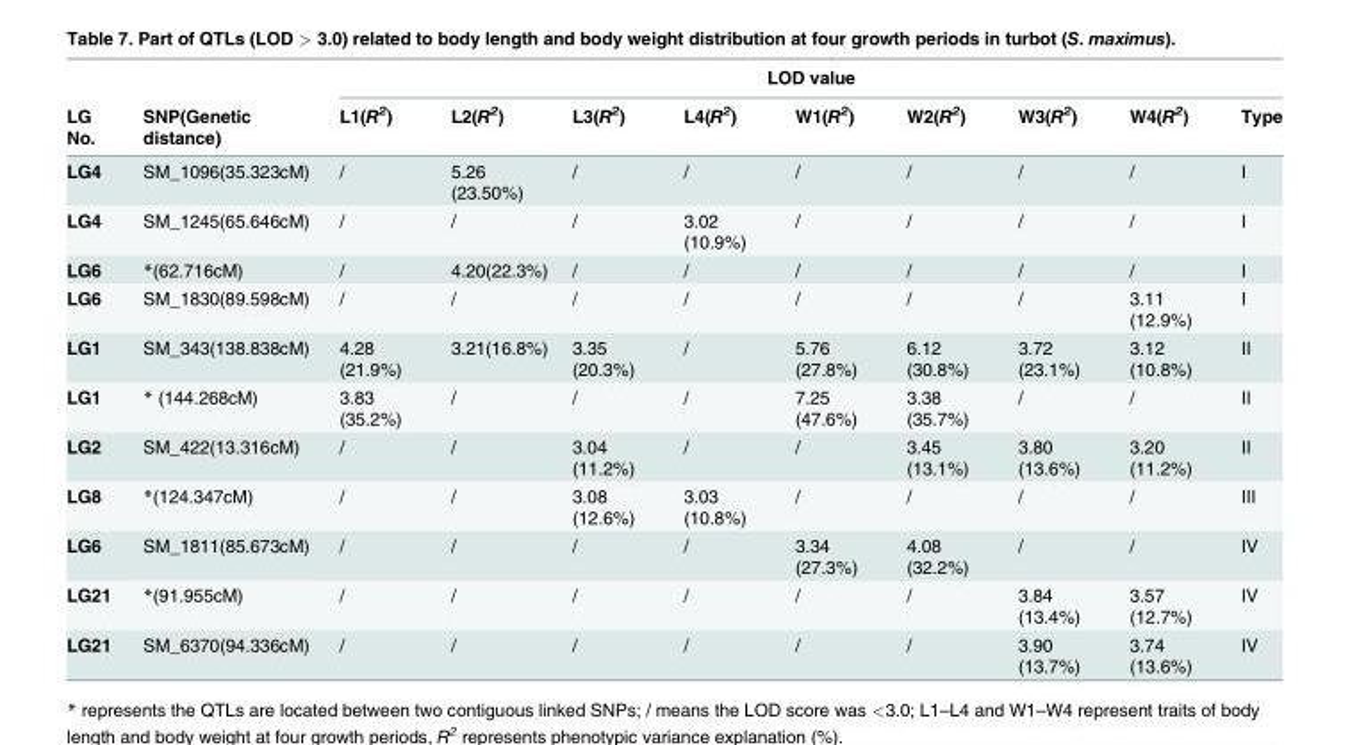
<table><thead><tr><td rowspan="2">LG No.</td><td rowspan="2">SNP(Genetic distance)</td><td colspan="9">LOD value</td></tr><tr><td>L1(R<sup>2</sup>)</td><td>L2(R<sup>2</sup>)</td><td>L3(R<sup>2</sup>)</td><td>L4(R<sup>2</sup>)</td><td>W1(R<sup>2</sup>)</td><td>W2(R<sup>2</sup>)</td><td>W3(R<sup>2</sup>)</td><td>W4(R<sup>2</sup>)</td><td>Type</td></tr></thead><tbody><tr><td>LG4</td><td>SM_1096(35.323cM)</td><td>/</td><td>5.26 (23.50%)</td><td>/</td><td>/</td><td>/</td><td>/</td><td>/</td><td>/</td><td>I</td></tr><tr><td>LG4</td><td>SM_1245(65.646cM)</td><td>/</td><td>/</td><td>/</td><td>3.02 (10.9%)</td><td>/</td><td>/</td><td>/</td><td>/</td><td>I</td></tr><tr><td>LG6</td><td>*(62.716cM)</td><td>/</td><td>4.20(22.3%)</td><td>/</td><td>/</td><td>/</td><td>/</td><td>/</td><td>/</td><td>I</td></tr><tr><td>LG6</td><td>SM_1830(89.598cM)</td><td>/</td><td>/</td><td>/</td><td>/</td><td>/</td><td>/</td><td>/</td><td>3.11 (12.9%)</td><td>I</td></tr><tr><td>LG1</td><td>SM_343(138.838cM)</td><td>4.28 (21.9%)</td><td>3.21(16.8%)</td><td>3.35 (20.3%)</td><td>/</td><td>5.76 (27.8%)</td><td>6.12 (30.8%)</td><td>3.72 (23.1%)</td><td>3.12 (10.8%)</td><td>II</td></tr><tr><td>LG1</td><td>* (144.268cM)</td><td>3.83 (35.2%)</td><td>/</td><td>/</td><td>/</td><td>7.25 (47.6%)</td><td>3.38 (35.7%)</td><td>/</td><td>/</td><td>II</td></tr><tr><td>LG2</td><td>SM_422(13.316cM)</td><td>/</td><td>/</td><td>3.04 (11.2%)</td><td>/</td><td>/</td><td>3.45 (13.1%)</td><td>3.80 (13.6%)</td><td>3.20 (11.2%)</td><td>II</td></tr><tr><td>LG8</td><td>*(124.347cM)</td><td>/</td><td>/</td><td>3.08 (12.6%)</td><td>3.03 (10.8%)</td><td>/</td><td>/</td><td>/</td><td>/</td><td>III</td></tr><tr><td>LG6</td><td>SM_1811(85.673cM)</td><td>/</td><td>/</td><td>/</td><td>/</td><td>3.34 (27.3%)</td><td>4.08 (32.2%)</td><td>/</td><td>/</td><td>IV</td></tr><tr><td>LG21</td><td>*(91.955cM)</td><td>/</td><td>/</td><td>/</td><td>/</td><td>/</td><td>/</td><td>3.84 (13.4%)</td><td>3.57 (12.7%)</td><td>IV</td></tr><tr><td>LG21</td><td>SM_6370(94.336cM)</td><td>/</td><td>/</td><td>/</td><td>/</td><td>/</td><td>/</td><td>3.90 (13.7%)</td><td>3.74 (13.6%)</td><td>IV</td></tr></tbody></table>